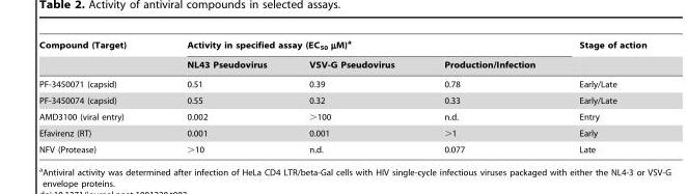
<table><thead><tr><td rowspan="2">Compound (Target)</td><td colspan="3">Activity in specified assay (EC<sub>50</sub> µM)<sup>a</sup></td><td rowspan="2">Stage of action</td></tr><tr><td>NL43 Pseudovirus</td><td>VSV-G Pseudovirus</td><td>Production/Infection</td></tr></thead><tbody><tr><td>PF-3450071 (capsid)</td><td>0.51</td><td>0.39</td><td>0.78</td><td>Early/Late</td></tr><tr><td>PF-3450074 (capsid)</td><td>0.55</td><td>0.32</td><td>0.33</td><td>Early/Late</td></tr><tr><td>AMD3100 (viral entry)</td><td>0.002</td><td>&gt;100</td><td>n.d.</td><td>Entry</td></tr><tr><td>Efavirenz (RT)</td><td>0.001</td><td>0.001</td><td>&gt;1</td><td>Early</td></tr><tr><td>NFV (Protease)</td><td>&gt;10</td><td>n.d.</td><td>0.077</td><td>Late</td></tr></tbody></table>